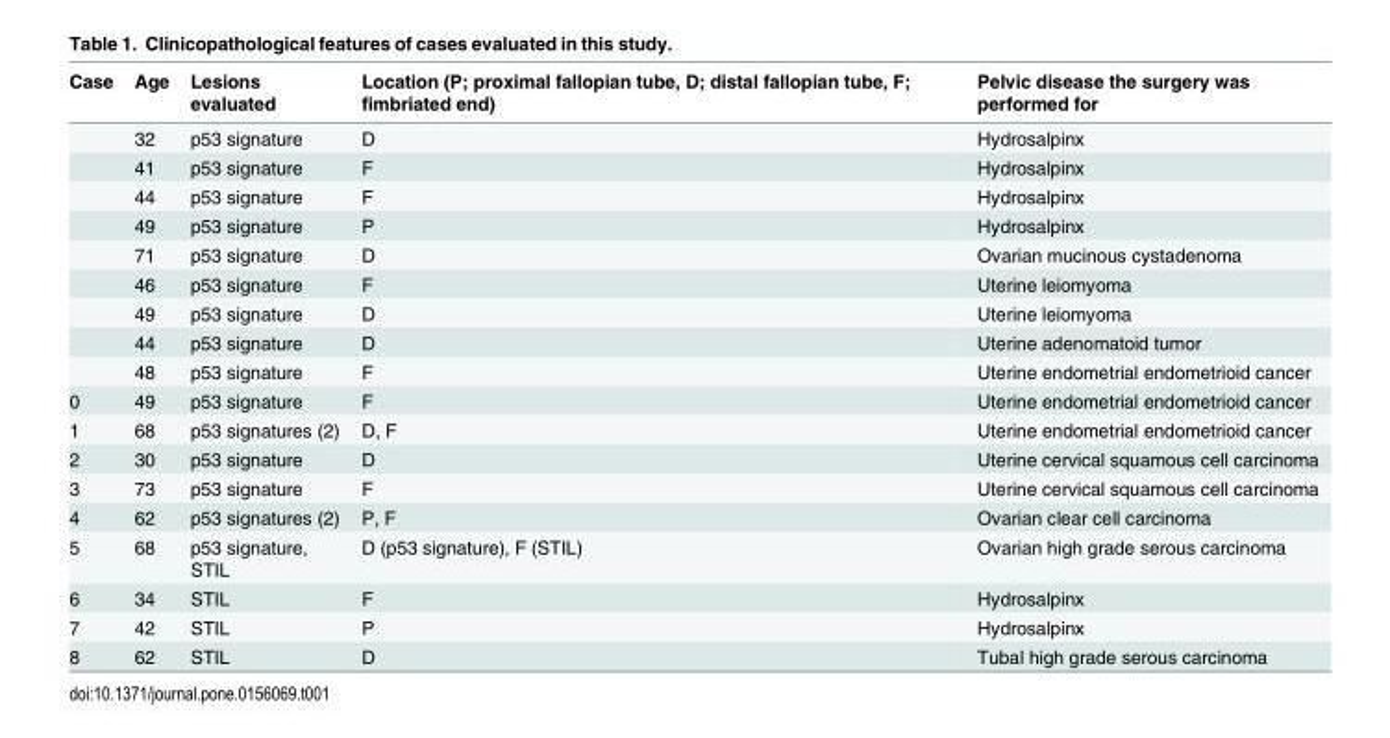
<table><thead><tr><td>Case</td><td>Age</td><td>Lesions evaluated</td><td>Location (P; proximal fallopian tube, D; distal fallopian tube, F; fimbriated end)</td><td>Pelvic disease the surgery was performed for</td></tr></thead><tbody><tr><td></td><td>32</td><td>p53 signature</td><td>D</td><td>Hydrosalpinx</td></tr><tr><td></td><td>41</td><td>p53 signature</td><td>F</td><td>Hydrosalpinx</td></tr><tr><td></td><td>44</td><td>p53 signature</td><td>F</td><td>Hydrosalpinx</td></tr><tr><td></td><td>49</td><td>p53 signature</td><td>P</td><td>Hydrosalpinx</td></tr><tr><td></td><td>71</td><td>p53 signature</td><td>D</td><td>Ovarian mucinous cystadenoma</td></tr><tr><td></td><td>46</td><td>p53 signature</td><td>F</td><td>Uterine leiomyoma</td></tr><tr><td></td><td>49</td><td>p53 signature</td><td>D</td><td>Uterine leiomyoma</td></tr><tr><td></td><td>44</td><td>p53 signature</td><td>D</td><td>Uterine adenomatoid tumor</td></tr><tr><td></td><td>48</td><td>p53 signature</td><td>F</td><td>Uterine endometrial endometrioid cancer</td></tr><tr><td>0</td><td>49</td><td>p53 signature</td><td>F</td><td>Uterine endometrial endometrioid cancer</td></tr><tr><td>1</td><td>68</td><td>p53 signatures (2)</td><td>D, F</td><td>Uterine endometrial endometrioid cancer</td></tr><tr><td>2</td><td>30</td><td>p53 signature</td><td>D</td><td>Uterine cervical squamous cell carcinoma</td></tr><tr><td>3</td><td>73</td><td>p53 signature</td><td>F</td><td>Uterine cervical squamous cell carcinoma</td></tr><tr><td>4</td><td>62</td><td>p53 signatures (2)</td><td>P, F</td><td>Ovarian clear cell carcinoma</td></tr><tr><td>5</td><td>68</td><td>p53 signature, STIL</td><td>D (p53 signature), F (STIL)</td><td>Ovarian high grade serous carcinoma</td></tr><tr><td>6</td><td>34</td><td>STIL</td><td>F</td><td>Hydrosalpinx</td></tr><tr><td>7</td><td>42</td><td>STIL</td><td>P</td><td>Hydrosalpinx</td></tr><tr><td>8</td><td>62</td><td>STIL</td><td>D</td><td>Tubal high grade serous carcinoma</td></tr></tbody></table>